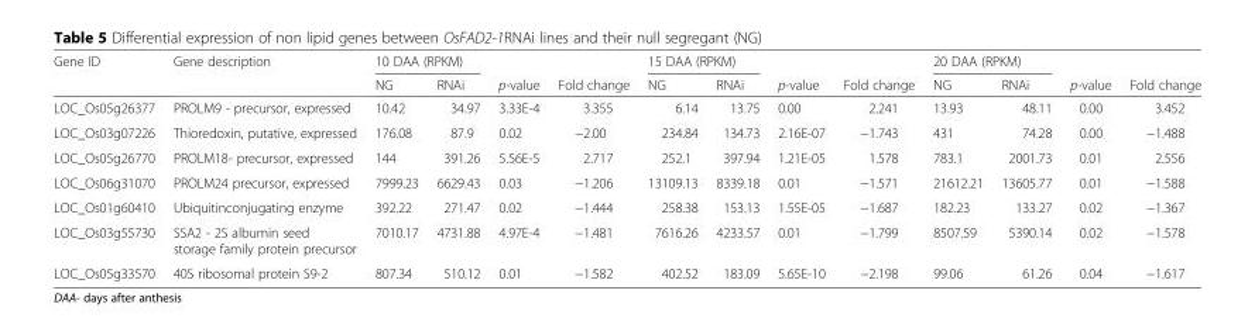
<table><thead><tr><td rowspan="2">Gene ID</td><td rowspan="2">Gene description</td><td colspan="2">10 DAA (RPKM)</td><td rowspan="2">p-value</td><td rowspan="2">Fold change</td><td colspan="2">15 DAA (RPKM)</td><td rowspan="2">p-value</td><td rowspan="2">Fold change</td><td colspan="2">20 DAA (RPKM)</td><td rowspan="2">p-value</td><td rowspan="2">Fold change</td></tr><tr><td>NG</td><td>RNAi</td><td>NG</td><td>RNAi</td><td>NG</td><td>RNAi</td></tr></thead><tbody><tr><td>LOC_Os05g26377</td><td>PROLM9 - precursor, expressed</td><td>10.42</td><td>34.97</td><td>3.33E-4</td><td>3.355</td><td>6.14</td><td>13.75</td><td>0.00</td><td>2.241</td><td>13.93</td><td>48.11</td><td>0.00</td><td>3.452</td></tr><tr><td>LOC_Os03g07226</td><td>Thioredoxin, putative, expressed</td><td>176.08</td><td>87.9</td><td>0.02</td><td>−2.00</td><td>234.84</td><td>134.73</td><td>2.16E-07</td><td>−1.743</td><td>431</td><td>74.28</td><td>0.00</td><td>−1.488</td></tr><tr><td>LOC_Os05g26770</td><td>PROLM18- precursor, expressed</td><td>144</td><td>391.26</td><td>5.56E-5</td><td>2.717</td><td>252.1</td><td>397.94</td><td>1.21E-05</td><td>1.578</td><td>783.1</td><td>2001.73</td><td>0.01</td><td>2.556</td></tr><tr><td>LOC_Os06g31070</td><td>PROLM24 precursor, expressed</td><td>7999.23</td><td>6629.43</td><td>0.03</td><td>−1.206</td><td>13109.13</td><td>8339.18</td><td>0.01</td><td>−1.571</td><td>21612.21</td><td>13605.77</td><td>0.01</td><td>−1.588</td></tr><tr><td>LOC_Os01g60410</td><td>Ubiquitinconjugating enzyme</td><td>392.22</td><td>271.47</td><td>0.02</td><td>−1.444</td><td>258.38</td><td>153.13</td><td>1.55E-05</td><td>−1.687</td><td>182.23</td><td>133.27</td><td>0.02</td><td>−1.367</td></tr><tr><td>LOC_Os03g55730</td><td>SSA2 - 2S albumin seed storage family protein precursor</td><td>7010.17</td><td>4731.88</td><td>4.97E-4</td><td>−1.481</td><td>7616.26</td><td>4233.57</td><td>0.01</td><td>−1.799</td><td>8507.59</td><td>5390.14</td><td>0.02</td><td>−1.578</td></tr><tr><td>LOC_Os05g33570</td><td>40S ribosomal protein S9-2</td><td>807.34</td><td>510.12</td><td>0.01</td><td>−1.582</td><td>402.52</td><td>183.09</td><td>5.65E-10</td><td>−2.198</td><td>99.06</td><td>61.26</td><td>0.04</td><td>−1.617</td></tr></tbody></table>